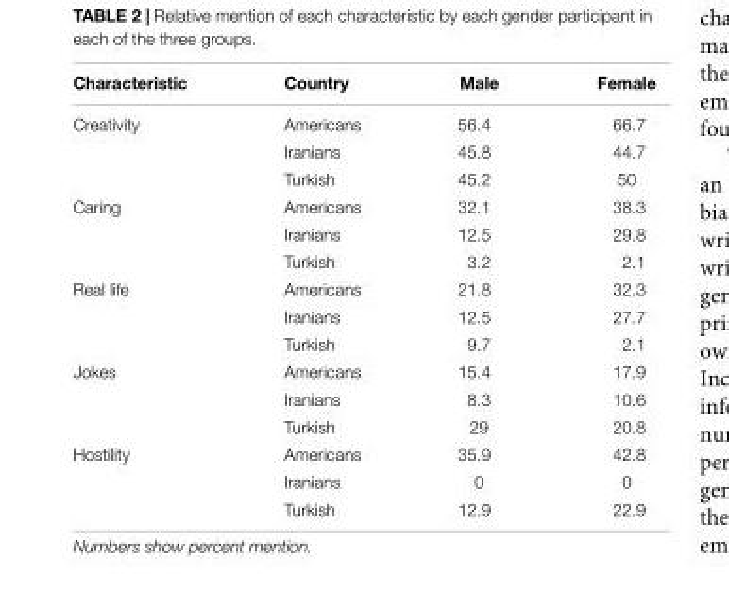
<table><thead><tr><td>Characteristic</td><td>Country</td><td>Male</td><td>Female</td></tr></thead><tbody><tr><td rowspan="3">Creativity</td><td>Americans</td><td>56.4</td><td>66.7</td></tr><tr><td>Iranians</td><td>45.8</td><td>44.7</td></tr><tr><td>Turkish</td><td>45.2</td><td>50</td></tr><tr><td rowspan="3">Caring</td><td>Americans</td><td>32.1</td><td>38.3</td></tr><tr><td>Iranians</td><td>12.5</td><td>29.8</td></tr><tr><td>Turkish</td><td>3.2</td><td>2.1</td></tr><tr><td rowspan="3">Real life</td><td>Americans</td><td>21.8</td><td>32.3</td></tr><tr><td>Iranians</td><td>12.5</td><td>27.7</td></tr><tr><td>Turkish</td><td>9.7</td><td>2.1</td></tr><tr><td rowspan="3">Jokes</td><td>Americans</td><td>15.4</td><td>17.9</td></tr><tr><td>Iranians</td><td>8.3</td><td>10.6</td></tr><tr><td>Turkish</td><td>29</td><td>20.8</td></tr><tr><td rowspan="3">Hostility</td><td>Americans</td><td>35.9</td><td>42.8</td></tr><tr><td>Iranians</td><td>0</td><td>0</td></tr><tr><td>Turkish</td><td>12.9</td><td>22.9</td></tr></tbody></table>